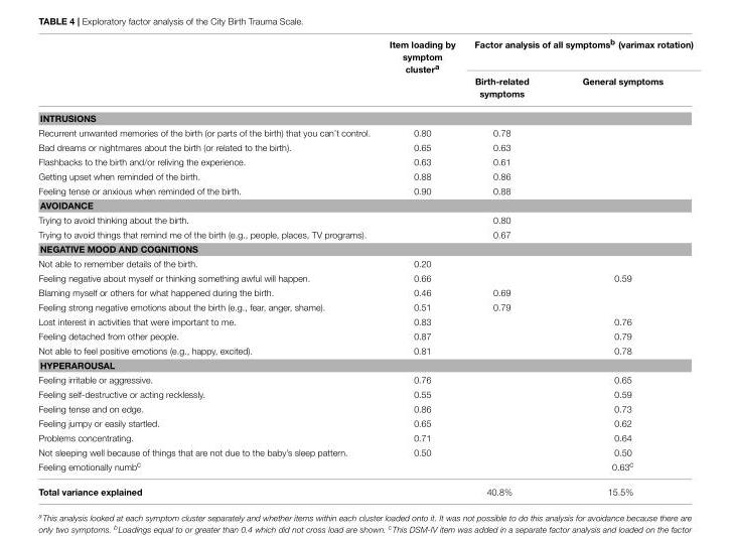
<table><thead><tr><td rowspan="2"></td><td rowspan="2">Item loading by symptom cluster<sup>a</sup></td><td colspan="2">Factor analysis of all symptoms<sup>b</sup> (varimax rotation)</td></tr><tr><td>Birth-related symptoms</td><td>General symptoms</td></tr></thead><tbody><tr><td colspan="4">INTRUSIONS</td></tr><tr><td>Recurrent unwanted memories of the birth (or parts of the birth) that you can’t control.</td><td>0.80</td><td>0.78</td><td></td></tr><tr><td>Bad dreams or nightmares about the birth (or related to the birth).</td><td>0.65</td><td>0.63</td><td></td></tr><tr><td>Flashbacks to the birth and/or reliving the experience.</td><td>0.63</td><td>0.61</td><td></td></tr><tr><td>Getting upset when reminded of the birth.</td><td>0.88</td><td>0.86</td><td></td></tr><tr><td>Feeling tense or anxious when reminded of the birth.</td><td>0.90</td><td>0.88</td><td></td></tr><tr><td colspan="4">AVOIDANCE</td></tr><tr><td>Trying to avoid thinking about the birth.</td><td></td><td>0.80</td><td></td></tr><tr><td>Trying to avoid things that remind me of the birth (e.g., people, places, TV programs).</td><td></td><td>0.67</td><td></td></tr><tr><td colspan="4">NEGATIVE MOOD AND COGNITIONS</td></tr><tr><td>Not able to remember details of the birth.</td><td>0.20</td><td></td><td></td></tr><tr><td>Feeling negative about myself or thinking something awful will happen.</td><td>0.66</td><td></td><td>0.59</td></tr><tr><td>Blaming myself or others for what happened during the birth.</td><td>0.46</td><td>0.69</td><td></td></tr><tr><td>Feeling strong negative emotions about the birth (e.g., fear, anger, shame).</td><td>0.51</td><td>0.79</td><td></td></tr><tr><td>Lost interest in activities that were important to me.</td><td>0.83</td><td></td><td>0.76</td></tr><tr><td>Feeling detached from other people.</td><td>0.87</td><td></td><td>0.79</td></tr><tr><td>Not able to feel positive emotions (e.g., happy, excited).</td><td>0.81</td><td></td><td>0.78</td></tr><tr><td colspan="4">HYPERAROUSAL</td></tr><tr><td>Feeling irritable or aggressive.</td><td>0.76</td><td></td><td>0.65</td></tr><tr><td>Feeling self-destructive or acting recklessly.</td><td>0.55</td><td></td><td>0.59</td></tr><tr><td>Feeling tense and on edge.</td><td>0.86</td><td></td><td>0.73</td></tr><tr><td>Feeling jumpy or easily startled.</td><td>0.65</td><td></td><td>0.62</td></tr><tr><td>Problems concentrating.</td><td>0.71</td><td></td><td>0.64</td></tr><tr><td>Not sleeping well because of things that are not due to the baby’s sleep pattern.</td><td>0.50</td><td></td><td>0.50</td></tr><tr><td>Feeling emotionally numb<sup>c</sup></td><td></td><td></td><td>0.63<sup>c</sup></td></tr><tr><td>Total variance explained</td><td></td><td>40.8%</td><td>15.5%</td></tr></tbody></table>